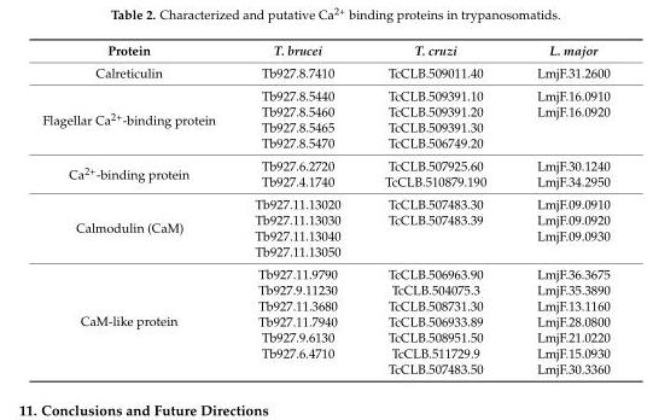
<table><thead><tr><td>Protein</td><td>T. brucei</td><td>T. cruzi</td><td>L. major</td></tr></thead><tbody><tr><td>Calreticulin</td><td>Tb927.8.7410</td><td>TcCLB.509011.40</td><td>LmjF.31.2600</td></tr><tr><td rowspan="4">Flagellar Ca<sup>2+</sup>-binding protein</td><td>Tb927.8.5440</td><td>TcCLB.509391.10</td><td>LmjF.16.0910</td></tr><tr><td>Tb927.8.5460</td><td>TcCLB.509391.20</td><td>LmjF.16.0920</td></tr><tr><td>Tb927.8.5465</td><td>TcCLB.509391.30</td><td></td></tr><tr><td>Tb927.8.5470</td><td>TcCLB.506749.20</td><td></td></tr><tr><td rowspan="2">Ca<sup>2+</sup>-binding protein</td><td>Tb927.6.2720</td><td>TcCLB.507925.60</td><td>LmjF.30.1240</td></tr><tr><td>Tb927.4.1740</td><td>TcCLB.510879.190</td><td>LmjF.34.2950</td></tr><tr><td rowspan="4">Calmodulin (CaM)</td><td>Tb927.11.13020</td><td>TcCLB.507483.30</td><td>LmjF.09.0910</td></tr><tr><td>Tb927.11.13030</td><td>TcCLB.507483.39</td><td>LmjF.09.0920</td></tr><tr><td>Tb927.11.13040</td><td></td><td>LmjF.09.0930</td></tr><tr><td>Tb927.11.13050</td><td></td><td></td></tr><tr><td rowspan="7">CaM-like protein</td><td>Tb927.11.9790</td><td>TcCLB.506963.90</td><td>LmjF.36.3675</td></tr><tr><td>Tb927.9.11230</td><td>TcCLB.504075.3</td><td>LmjF.35.3890</td></tr><tr><td>Tb927.11.3680</td><td>TcCLB.508731.30</td><td>LmjF.13.1160</td></tr><tr><td>Tb927.11.7940</td><td>TcCLB.506933.89</td><td>LmjF.28.0800</td></tr><tr><td>Tb927.9.6130</td><td>TcCLB.508951.50</td><td>LmjF.21.0220</td></tr><tr><td>Tb927.6.4710</td><td>TcCLB.511729.9</td><td>LmjF.15.0930</td></tr><tr><td></td><td>TcCLB.507483.50</td><td>LmjF.30.3360</td></tr></tbody></table>